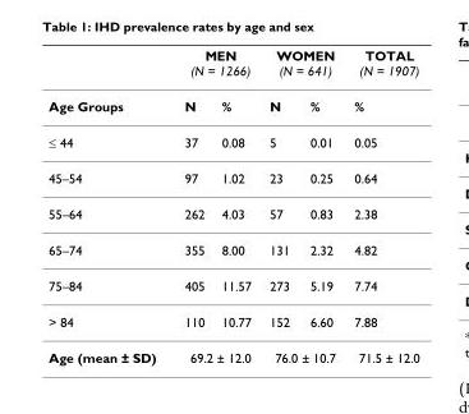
<table><thead><tr><td rowspan="2">Age Groups</td><td colspan="2">MEN (N = 1266)</td><td colspan="2">WOMEN (N = 641)</td><td rowspan="2">TOTAL (N = 1907) %</td></tr><tr><td>N</td><td>%</td><td>N</td><td>%</td></tr></thead><tbody><tr><td>≤ 44</td><td>37</td><td>0.08</td><td>5</td><td>0.01</td><td>0.05</td></tr><tr><td>45–54</td><td>97</td><td>1.02</td><td>23</td><td>0.25</td><td>0.64</td></tr><tr><td>55–64</td><td>262</td><td>4.03</td><td>57</td><td>0.83</td><td>2.38</td></tr><tr><td>65–74</td><td>355</td><td>8.00</td><td>131</td><td>2.32</td><td>4.82</td></tr><tr><td>75–84</td><td>405</td><td>11.57</td><td>273</td><td>5.19</td><td>7.74</td></tr><tr><td>&gt; 84</td><td>110</td><td>10.77</td><td>152</td><td>6.60</td><td>7.88</td></tr><tr><td>Age (mean ± SD)</td><td colspan="2">69.2 ± 12.0</td><td colspan="2">76.0 ± 10.7</td><td>71.5 ± 12.0</td></tr></tbody></table>